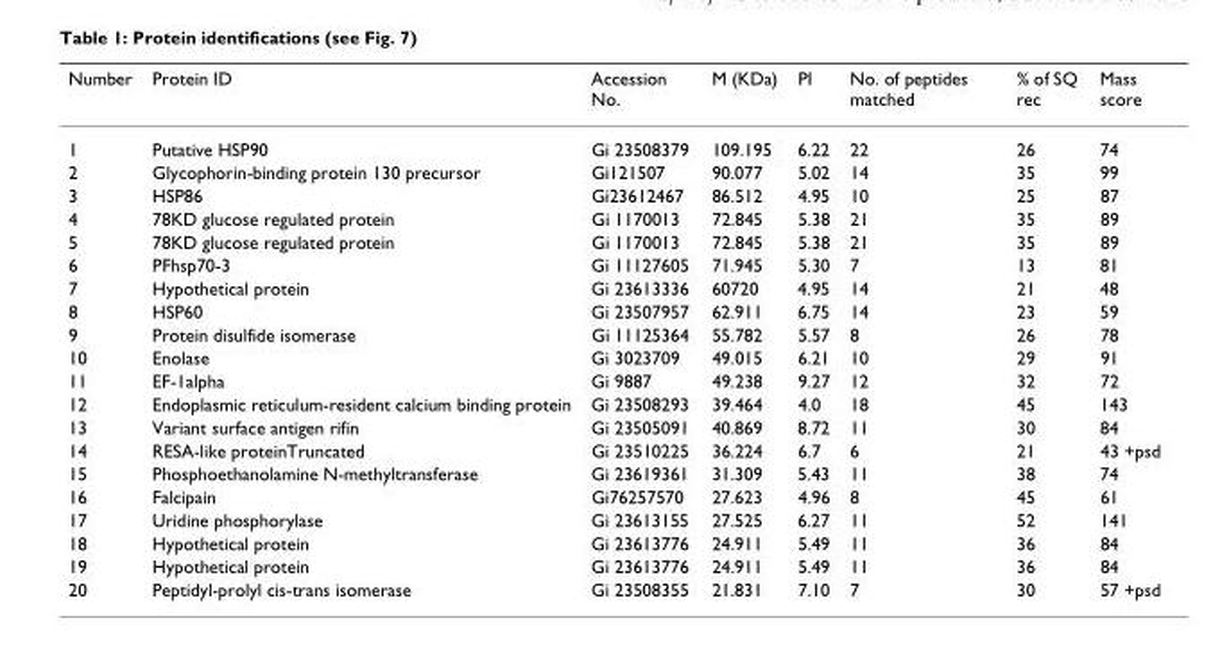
<table><thead><tr><td>Number</td><td>Protein ID</td><td>Accession No.</td><td>M (KDa)</td><td>PI</td><td>No. of peptides matched</td><td>% of SQ rec</td><td>Mass score</td></tr></thead><tbody><tr><td>1</td><td>Putative HSP90</td><td>Gi 23508379</td><td>109.195</td><td>6.22</td><td>22</td><td>26</td><td>74</td></tr><tr><td>2</td><td>Glycophorin-binding protein 130 precursor</td><td>Gi121507</td><td>90.077</td><td>5.02</td><td>14</td><td>35</td><td>99</td></tr><tr><td>3</td><td>HSP86</td><td>Gi23612467</td><td>86.512</td><td>4.95</td><td>10</td><td>25</td><td>87</td></tr><tr><td>4</td><td>78KD glucose regulated protein</td><td>Gi 1170013</td><td>72.845</td><td>5.38</td><td>21</td><td>35</td><td>89</td></tr><tr><td>5</td><td>78KD glucose regulated protein</td><td>Gi 1170013</td><td>72.845</td><td>5.38</td><td>21</td><td>35</td><td>89</td></tr><tr><td>6</td><td>PFhsp70-3</td><td>Gi 11127605</td><td>71.945</td><td>5.30</td><td>7</td><td>13</td><td>81</td></tr><tr><td>7</td><td>Hypothetical protein</td><td>Gi 23613336</td><td>60720</td><td>4.95</td><td>14</td><td>21</td><td>48</td></tr><tr><td>8</td><td>HSP60</td><td>Gi 23507957</td><td>62.911</td><td>6.75</td><td>14</td><td>23</td><td>59</td></tr><tr><td>9</td><td>Protein disulfide isomerase</td><td>Gi 11125364</td><td>55.782</td><td>5.57</td><td>8</td><td>26</td><td>78</td></tr><tr><td>10</td><td>Enolase</td><td>Gi 3023709</td><td>49.015</td><td>6.21</td><td>10</td><td>29</td><td>91</td></tr><tr><td>11</td><td>EF-1alpha</td><td>Gi 9887</td><td>49.238</td><td>9.27</td><td>12</td><td>32</td><td>72</td></tr><tr><td>12</td><td>Endoplasmic reticulum-resident calcium binding protein</td><td>Gi 23508293</td><td>39.464</td><td>4.0</td><td>18</td><td>45</td><td>143</td></tr><tr><td>13</td><td>Variant surface antigen rifin</td><td>Gi 23505091</td><td>40.869</td><td>8.72</td><td>11</td><td>30</td><td>84</td></tr><tr><td>14</td><td>RESA-like proteinTruncated</td><td>Gi 23510225</td><td>36.224</td><td>6.7</td><td>6</td><td>21</td><td>43 +psd</td></tr><tr><td>15</td><td>Phosphoethanolamine N-methyltransferase</td><td>Gi 23619361</td><td>31.309</td><td>5.43</td><td>11</td><td>38</td><td>74</td></tr><tr><td>16</td><td>Falcipain</td><td>Gi76257570</td><td>27.623</td><td>4.96</td><td>8</td><td>45</td><td>61</td></tr><tr><td>17</td><td>Uridine phosphorylase</td><td>Gi 23613155</td><td>27.525</td><td>6.27</td><td>11</td><td>52</td><td>141</td></tr><tr><td>18</td><td>Hypothetical protein</td><td>Gi 23613776</td><td>24.911</td><td>5.49</td><td>11</td><td>36</td><td>84</td></tr><tr><td>19</td><td>Hypothetical protein</td><td>Gi 23613776</td><td>24.911</td><td>5.49</td><td>11</td><td>36</td><td>84</td></tr><tr><td>20</td><td>Peptidyl-prolyl cis-trans isomerase</td><td>Gi 23508355</td><td>21.831</td><td>7.10</td><td>7</td><td>30</td><td>57 +psd</td></tr></tbody></table>